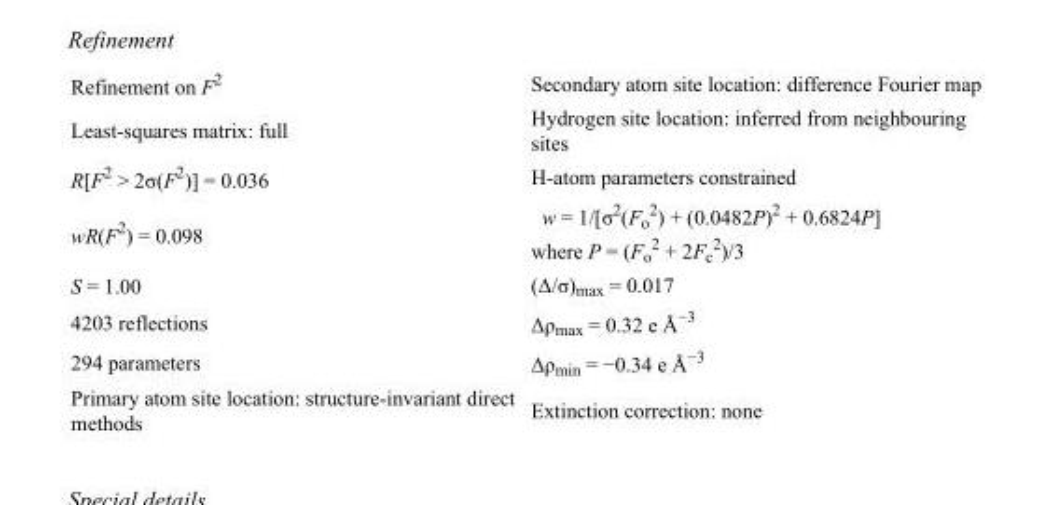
<table><tbody><tr><td>Refinement on F<sup>2</sup></td><td>Secondary atom site location: difference Fourier map</td></tr><tr><td>Least-squares matrix: full</td><td>Hydrogen site location: inferred from neighbouring sites</td></tr><tr><td>R[F<sup>2</sup> &gt; 2σ(F<sup>2</sup>)] = 0.036</td><td>H-atom parameters constrained</td></tr><tr><td>wR(F<sup>2</sup>) = 0.098</td><td>w = 1/[σ<sup>2</sup>(F<sub>o</sub> <sup>2</sup>) + (0.0482P)<sup>2</sup> + 0.6824P] where P = (F<sub>o</sub> <sup>2</sup> + 2F<sub>c</sub> <sup>2</sup>)/3</td></tr><tr><td>S = 1.00</td><td>(Δ/σ)<sub>max</sub> = 0.017</td></tr><tr><td>4203 reflections</td><td>Δρ<sub>max</sub> = 0.32 e Å<sup>−3</sup></td></tr><tr><td>294 parameters</td><td>Δρ<sub>min</sub> = −0.34 e Å<sup>−3</sup></td></tr><tr><td>Primary atom site location: structure-invariant direct methods</td><td>Extinction correction: none</td></tr></tbody></table>